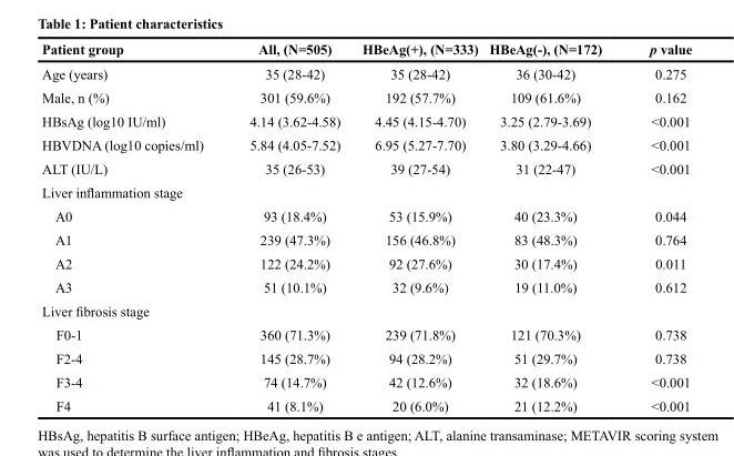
<table><thead><tr><td>Patient group</td><td>All, (N=505)</td><td>HBeAg(+), (N=333)</td><td>HBeAg(-), (N=172)</td><td>p value</td></tr></thead><tbody><tr><td>Age (years)</td><td>35 (28-42)</td><td>35 (28-42)</td><td>36 (30-42)</td><td>0.275</td></tr><tr><td>Male, n (%)</td><td>301 (59.6%)</td><td>192 (57.7%)</td><td>109 (61.6%)</td><td>0.162</td></tr><tr><td>HBsAg (log10 IU/ml)</td><td>4.14 (3.62-4.58)</td><td>4.45 (4.15-4.70)</td><td>3.25 (2.79-3.69)</td><td>&lt;0.001</td></tr><tr><td>HBVDNA (log10 copies/ml)</td><td>5.84 (4.05-7.52)</td><td>6.95 (5.27-7.70)</td><td>3.80 (3.29-4.66)</td><td>&lt;0.001</td></tr><tr><td>ALT (IU/L)</td><td>35 (26-53)</td><td>39 (27-54)</td><td>31 (22-47)</td><td>&lt;0.001</td></tr><tr><td colspan="5">Liver inflammation stage</td></tr><tr><td>A0</td><td>93 (18.4%)</td><td>53 (15.9%)</td><td>40 (23.3%)</td><td>0.044</td></tr><tr><td>A1</td><td>239 (47.3%)</td><td>156 (46.8%)</td><td>83 (48.3%)</td><td>0.764</td></tr><tr><td>A2</td><td>122 (24.2%)</td><td>92 (27.6%)</td><td>30 (17.4%)</td><td>0.011</td></tr><tr><td>A3</td><td>51 (10.1%)</td><td>32 (9.6%)</td><td>19 (11.0%)</td><td>0.612</td></tr><tr><td colspan="5">Liver fibrosis stage</td></tr><tr><td>F0-1</td><td>360 (71.3%)</td><td>239 (71.8%)</td><td>121 (70.3%)</td><td>0.738</td></tr><tr><td>F2-4</td><td>145 (28.7%)</td><td>94 (28.2%)</td><td>51 (29.7%)</td><td>0.738</td></tr><tr><td>F3-4</td><td>74 (14.7%)</td><td>42 (12.6%)</td><td>32 (18.6%)</td><td>&lt;0.001</td></tr><tr><td>F4</td><td>41 (8.1%)</td><td>20 (6.0%)</td><td>21 (12.2%)</td><td>&lt;0.001</td></tr></tbody></table>